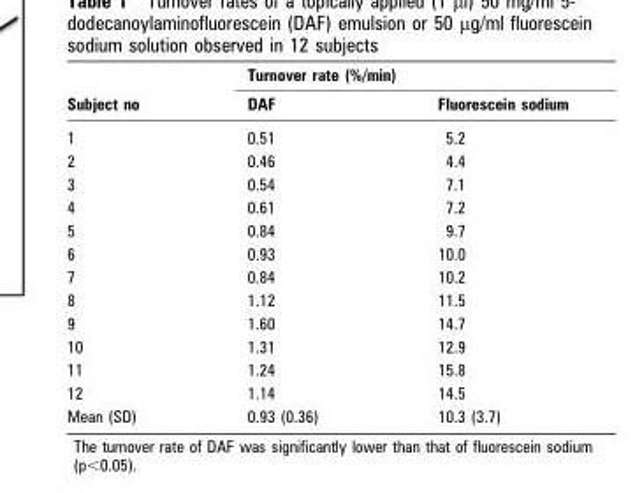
<table><thead><tr><td rowspan="2">Subject no</td><td colspan="2">Turnover rate (%/min)</td></tr><tr><td>DAF</td><td>Fluorescein sodium</td></tr></thead><tbody><tr><td>1</td><td>0.51</td><td>5.2</td></tr><tr><td>2</td><td>0.46</td><td>4.4</td></tr><tr><td>3</td><td>0.54</td><td>7.1</td></tr><tr><td>4</td><td>0.61</td><td>7.2</td></tr><tr><td>5</td><td>0.84</td><td>9.7</td></tr><tr><td>6</td><td>0.93</td><td>10.0</td></tr><tr><td>7</td><td>0.84</td><td>10.2</td></tr><tr><td>8</td><td>1.12</td><td>11.5</td></tr><tr><td>9</td><td>1.60</td><td>14.7</td></tr><tr><td>10</td><td>1.31</td><td>12.9</td></tr><tr><td>11</td><td>1.24</td><td>15.8</td></tr><tr><td>12</td><td>1.14</td><td>14.5</td></tr><tr><td>Mean (SD)</td><td>0.93 (0.36)</td><td>10.3 (3.7)</td></tr></tbody></table>